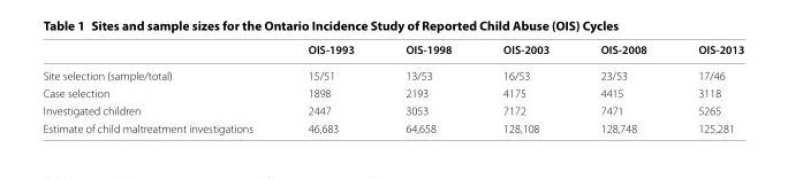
<table><thead><tr><td></td><td>OIS-1993</td><td>OIS-1998</td><td>OIS-2003</td><td>OIS-2008</td><td>OIS-2013</td></tr></thead><tbody><tr><td>Site selection (sample/total)</td><td>15/51</td><td>13/53</td><td>16/53</td><td>23/53</td><td>17/46</td></tr><tr><td>Case selection</td><td>1898</td><td>2193</td><td>4175</td><td>4415</td><td>3118</td></tr><tr><td>Investigated children</td><td>2447</td><td>3053</td><td>7172</td><td>7471</td><td>5265</td></tr><tr><td>Estimate of child maltreatment investigations</td><td>46,683</td><td>64,658</td><td>128,108</td><td>128,748</td><td>125,281</td></tr></tbody></table>